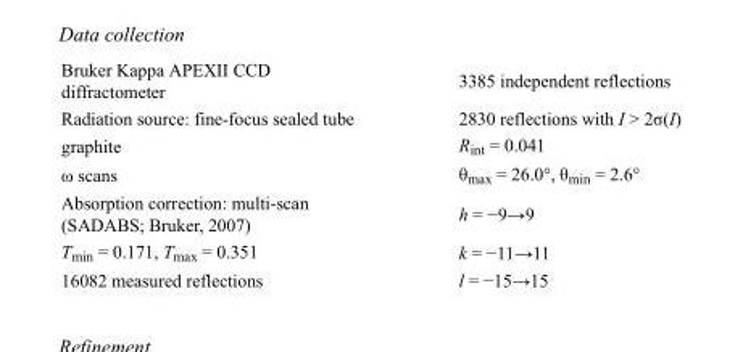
<table><tbody><tr><td>Bruker Kappa APEXII CCD diffractometer</td><td>3385 independent reflections</td></tr><tr><td>Radiation source: fine-focus sealed tube</td><td>2830 reflections with I &gt; 2σ(I)</td></tr><tr><td>graphite</td><td>R<sub>int</sub> = 0.041</td></tr><tr><td>ω scans</td><td>θ<sub>max</sub> = 26.0°, θ<sub>min</sub> = 2.6°</td></tr><tr><td>Absorption correction: multi-scan (SADABS; Bruker, 2007)</td><td>h = −9→9</td></tr><tr><td>T<sub>min</sub> = 0.171, T<sub>max</sub> = 0.351</td><td>k = −11→11</td></tr><tr><td>16082 measured reflections</td><td>l = −15→15</td></tr></tbody></table>